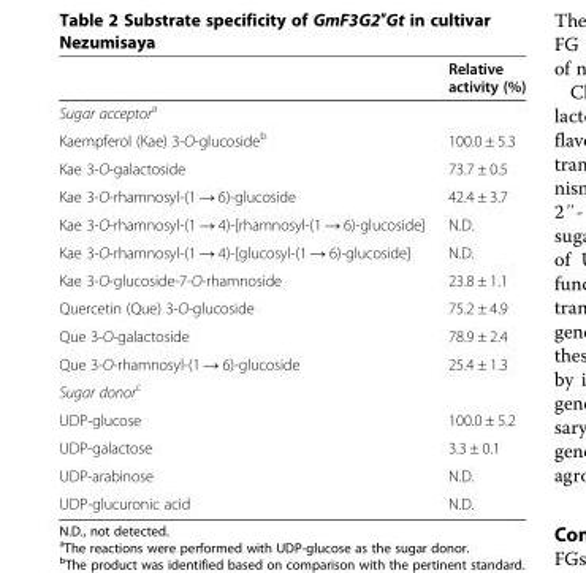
<table><thead><tr><td></td><td>Relative activity (%)</td></tr></thead><tbody><tr><td colspan="2">Sugar acceptor<sup>a</sup></td></tr><tr><td>Kaempferol (Kae) 3-O-glucoside<sup>b</sup></td><td>100.0 ± 5.3</td></tr><tr><td>Kae 3-O-galactoside</td><td>73.7 ± 0.5</td></tr><tr><td>Kae 3-O-rhamnosyl-(1 → 6)-glucoside</td><td>42.4 ± 3.7</td></tr><tr><td>Kae 3-O-rhamnosyl-(1 → 4)-[rhamnosyl-(1 → 6)-glucoside]</td><td>N.D.</td></tr><tr><td>Kae 3-O-rhamnosyl-(1 → 4)-[glucosyl-(1 → 6)-glucoside]</td><td>N.D.</td></tr><tr><td>Kae 3-O-glucoside-7-O-rhamnoside</td><td>23.8 ± 1.1</td></tr><tr><td>Quercetin (Que) 3-O-glucoside</td><td>75.2 ± 4.9</td></tr><tr><td>Que 3-O-galactoside</td><td>78.9 ± 2.4</td></tr><tr><td>Que 3-O-rhamnosyl-(1 → 6)-glucoside</td><td>25.4 ± 1.3</td></tr><tr><td colspan="2">Sugar donor<sup>c</sup></td></tr><tr><td>UDP-glucose</td><td>100.0 ± 5.2</td></tr><tr><td>UDP-galactose</td><td>3.3 ± 0.1</td></tr><tr><td>UDP-arabinose</td><td>N.D.</td></tr><tr><td>UDP-glucuronic acid</td><td>N.D.</td></tr></tbody></table>